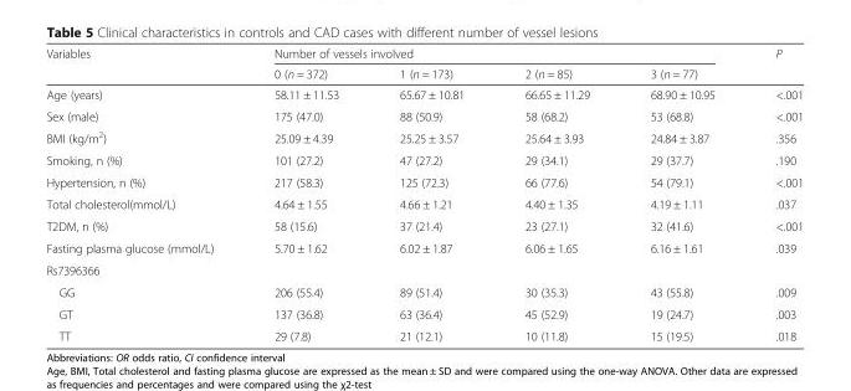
<table><thead><tr><td rowspan="2">Variables</td><td colspan="4">Number of vessels involved</td><td rowspan="2">P</td></tr><tr><td>0 (n = 372)</td><td>1 (n = 173)</td><td>2 (n = 85)</td><td>3 (n = 77)</td></tr></thead><tbody><tr><td>Age (years)</td><td>58.11 ± 11.53</td><td>65.67 ± 10.81</td><td>66.65 ± 11.29</td><td>68.90 ± 10.95</td><td>&lt;.001</td></tr><tr><td>Sex (male)</td><td>175 (47.0)</td><td>88 (50.9)</td><td>58 (68.2)</td><td>53 (68.8)</td><td>&lt;.001</td></tr><tr><td>BMI (kg/m<sup>2</sup>)</td><td>25.09 ± 4.39</td><td>25.25 ± 3.57</td><td>25.64 ± 3.93</td><td>24.84 ± 3.87</td><td>.356</td></tr><tr><td>Smoking, n (%)</td><td>101 (27.2)</td><td>47 (27.2)</td><td>29 (34.1)</td><td>29 (37.7)</td><td>.190</td></tr><tr><td>Hypertension, n (%)</td><td>217 (58.3)</td><td>125 (72.3)</td><td>66 (77.6)</td><td>54 (79.1)</td><td>&lt;.001</td></tr><tr><td>Total cholesterol(mmol/L)</td><td>4.64 ± 1.55</td><td>4.66 ± 1.21</td><td>4.40 ± 1.35</td><td>4.19 ± 1.11</td><td>.037</td></tr><tr><td>T2DM, n (%)</td><td>58 (15.6)</td><td>37 (21.4)</td><td>23 (27.1)</td><td>32 (41.6)</td><td>&lt;.001</td></tr><tr><td>Fasting plasma glucose (mmol/L)</td><td>5.70 ± 1.62</td><td>6.02 ± 1.87</td><td>6.06 ± 1.65</td><td>6.16 ± 1.61</td><td>.039</td></tr><tr><td colspan="6">Rs7396366</td></tr><tr><td>GG</td><td>206 (55.4)</td><td>89 (51.4)</td><td>30 (35.3)</td><td>43 (55.8)</td><td>.009</td></tr><tr><td>GT</td><td>137 (36.8)</td><td>63 (36.4)</td><td>45 (52.9)</td><td>19 (24.7)</td><td>.003</td></tr><tr><td>TT</td><td>29 (7.8)</td><td>21 (12.1)</td><td>10 (11.8)</td><td>15 (19.5)</td><td>.018</td></tr></tbody></table>